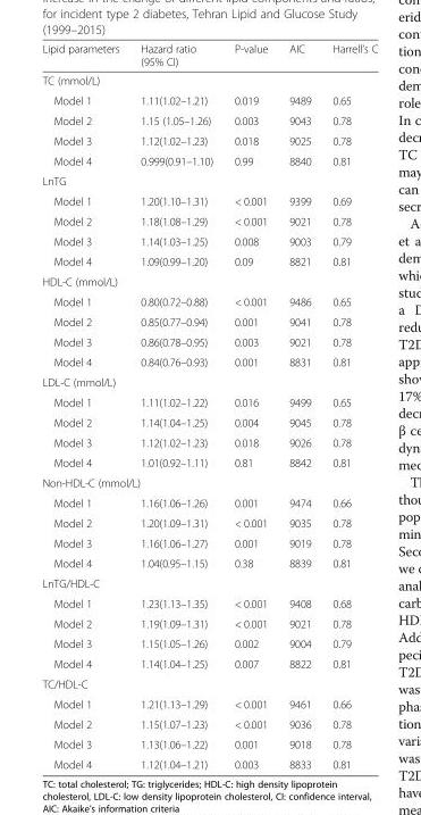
<table><thead><tr><td>Lipid parameters</td><td>Hazard ratio (95% CI)</td><td>P-value</td><td>AIC</td><td>Harrell’s C</td></tr></thead><tbody><tr><td colspan="5">TC (mmol/L)</td></tr><tr><td>Model 1</td><td>1.11(1.02–1.21)</td><td>0.019</td><td>9489</td><td>0.65</td></tr><tr><td>Model 2</td><td>1.15 (1.05–1.26)</td><td>0.003</td><td>9043</td><td>0.78</td></tr><tr><td>Model 3</td><td>1.12(1.02–1.23)</td><td>0.018</td><td>9025</td><td>0.78</td></tr><tr><td>Model 4</td><td>0.999(0.91–1.10)</td><td>0.99</td><td>8840</td><td>0.81</td></tr><tr><td colspan="5">LnTG</td></tr><tr><td>Model 1</td><td>1.20(1.10–1.31)</td><td>&lt; 0.001</td><td>9399</td><td>0.69</td></tr><tr><td>Model 2</td><td>1.18(1.08–1.29)</td><td>&lt; 0.001</td><td>9021</td><td>0.78</td></tr><tr><td>Model 3</td><td>1.14(1.03–1.25)</td><td>0.008</td><td>9003</td><td>0.79</td></tr><tr><td>Model 4</td><td>1.09(0.99–1.20)</td><td>0.09</td><td>8821</td><td>0.81</td></tr><tr><td colspan="5">HDL-C (mmol/L)</td></tr><tr><td>Model 1</td><td>0.80(0.72–0.88)</td><td>&lt; 0.001</td><td>9486</td><td>0.65</td></tr><tr><td>Model 2</td><td>0.85(0.77–0.94)</td><td>0.001</td><td>9041</td><td>0.78</td></tr><tr><td>Model 3</td><td>0.86(0.78–0.95)</td><td>0.003</td><td>9021</td><td>0.78</td></tr><tr><td>Model 4</td><td>0.84(0.76–0.93)</td><td>0.001</td><td>8831</td><td>0.81</td></tr><tr><td colspan="5">LDL-C (mmol/L)</td></tr><tr><td>Model 1</td><td>1.11(1.02–1.22)</td><td>0.016</td><td>9499</td><td>0.65</td></tr><tr><td>Model 2</td><td>1.14(1.04–1.25)</td><td>0.004</td><td>9045</td><td>0.78</td></tr><tr><td>Model 3</td><td>1.12(1.02–1.23)</td><td>0.018</td><td>9026</td><td>0.78</td></tr><tr><td>Model 4</td><td>1.01(0.92–1.11)</td><td>0.81</td><td>8842</td><td>0.81</td></tr><tr><td colspan="5">Non-HDL-C (mmol/L)</td></tr><tr><td>Model 1</td><td>1.16(1.06–1.26)</td><td>0.001</td><td>9474</td><td>0.66</td></tr><tr><td>Model 2</td><td>1.20(1.09–1.31)</td><td>&lt; 0.001</td><td>9035</td><td>0.78</td></tr><tr><td>Model 3</td><td>1.16(1.06–1.27)</td><td>0.001</td><td>9019</td><td>0.78</td></tr><tr><td>Model 4</td><td>1.04(0.95–1.15)</td><td>0.38</td><td>8839</td><td>0.81</td></tr><tr><td colspan="5">LnTG/HDL-C</td></tr><tr><td>Model 1</td><td>1.23(1.13–1.35)</td><td>&lt; 0.001</td><td>9408</td><td>0.68</td></tr><tr><td>Model 2</td><td>1.19(1.09–1.31)</td><td>&lt; 0.001</td><td>9021</td><td>0.78</td></tr><tr><td>Model 3</td><td>1.15(1.05–1.26)</td><td>0.002</td><td>9004</td><td>0.79</td></tr><tr><td>Model 4</td><td>1.14(1.04–1.25)</td><td>0.007</td><td>8822</td><td>0.81</td></tr><tr><td colspan="5">TC/HDL-C</td></tr><tr><td>Model 1</td><td>1.21(1.13–1.29)</td><td>&lt; 0.001</td><td>9461</td><td>0.66</td></tr><tr><td>Model 2</td><td>1.15(1.07–1.23)</td><td>&lt; 0.001</td><td>9036</td><td>0.78</td></tr><tr><td>Model 3</td><td>1.13(1.06–1.22)</td><td>0.001</td><td>9018</td><td>0.78</td></tr><tr><td>Model 4</td><td>1.12(1.04–1.21)</td><td>0.003</td><td>8833</td><td>0.81</td></tr></tbody></table>